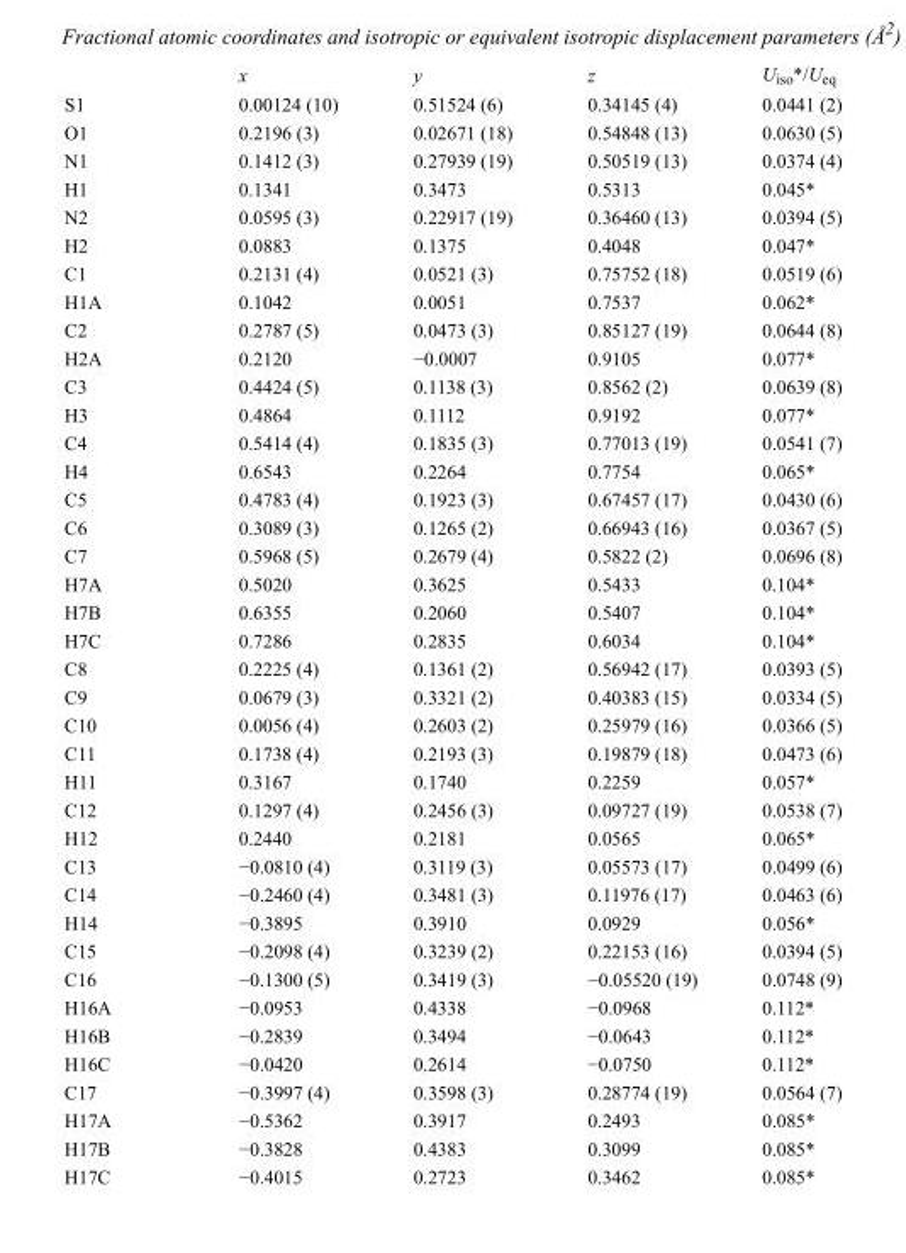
<table><thead><tr><td></td><td>x</td><td>y</td><td>z</td><td>U<sub>iso</sub>*/U<sub>eq</sub></td></tr></thead><tbody><tr><td>S1</td><td>0.00124 (10)</td><td>0.51524 (6)</td><td>0.34145 (4)</td><td>0.0441 (2)</td></tr><tr><td>O1</td><td>0.2196 (3)</td><td>0.02671 (18)</td><td>0.54848 (13)</td><td>0.0630 (5)</td></tr><tr><td>N1</td><td>0.1412 (3)</td><td>0.27939 (19)</td><td>0.50519 (13)</td><td>0.0374 (4)</td></tr><tr><td>H1</td><td>0.1341</td><td>0.3473</td><td>0.5313</td><td>0.045*</td></tr><tr><td>N2</td><td>0.0595 (3)</td><td>0.22917 (19)</td><td>0.36460 (13)</td><td>0.0394 (5)</td></tr><tr><td>H2</td><td>0.0883</td><td>0.1375</td><td>0.4048</td><td>0.047*</td></tr><tr><td>C1</td><td>0.2131 (4)</td><td>0.0521 (3)</td><td>0.75752 (18)</td><td>0.0519 (6)</td></tr><tr><td>H1A</td><td>0.1042</td><td>0.0051</td><td>0.7537</td><td>0.062*</td></tr><tr><td>C2</td><td>0.2787 (5)</td><td>0.0473 (3)</td><td>0.85127 (19)</td><td>0.0644 (8)</td></tr><tr><td>H2A</td><td>0.2120</td><td>−0.0007</td><td>0.9105</td><td>0.077*</td></tr><tr><td>C3</td><td>0.4424 (5)</td><td>0.1138 (3)</td><td>0.8562 (2)</td><td>0.0639 (8)</td></tr><tr><td>H3</td><td>0.4864</td><td>0.1112</td><td>0.9192</td><td>0.077*</td></tr><tr><td>C4</td><td>0.5414 (4)</td><td>0.1835 (3)</td><td>0.77013 (19)</td><td>0.0541 (7)</td></tr><tr><td>H4</td><td>0.6543</td><td>0.2264</td><td>0.7754</td><td>0.065*</td></tr><tr><td>C5</td><td>0.4783 (4)</td><td>0.1923 (3)</td><td>0.67457 (17)</td><td>0.0430 (6)</td></tr><tr><td>C6</td><td>0.3089 (3)</td><td>0.1265 (2)</td><td>0.66943 (16)</td><td>0.0367 (5)</td></tr><tr><td>C7</td><td>0.5968 (5)</td><td>0.2679 (4)</td><td>0.5822 (2)</td><td>0.0696 (8)</td></tr><tr><td>H7A</td><td>0.5020</td><td>0.3625</td><td>0.5433</td><td>0.104*</td></tr><tr><td>H7B</td><td>0.6355</td><td>0.2060</td><td>0.5407</td><td>0.104*</td></tr><tr><td>H7C</td><td>0.7286</td><td>0.2835</td><td>0.6034</td><td>0.104*</td></tr><tr><td>C8</td><td>0.2225 (4)</td><td>0.1361 (2)</td><td>0.56942 (17)</td><td>0.0393 (5)</td></tr><tr><td>C9</td><td>0.0679 (3)</td><td>0.3321 (2)</td><td>0.40383 (15)</td><td>0.0334 (5)</td></tr><tr><td>C10</td><td>0.0056 (4)</td><td>0.2603 (2)</td><td>0.25979 (16)</td><td>0.0366 (5)</td></tr><tr><td>C11</td><td>0.1738 (4)</td><td>0.2193 (3)</td><td>0.19879 (18)</td><td>0.0473 (6)</td></tr><tr><td>H11</td><td>0.3167</td><td>0.1740</td><td>0.2259</td><td>0.057*</td></tr><tr><td>C12</td><td>0.1297 (4)</td><td>0.2456 (3)</td><td>0.09727 (19)</td><td>0.0538 (7)</td></tr><tr><td>H12</td><td>0.2440</td><td>0.2181</td><td>0.0565</td><td>0.065*</td></tr><tr><td>C13</td><td>−0.0810 (4)</td><td>0.3119 (3)</td><td>0.05573 (17)</td><td>0.0499 (6)</td></tr><tr><td>C14</td><td>−0.2460 (4)</td><td>0.3481 (3)</td><td>0.11976 (17)</td><td>0.0463 (6)</td></tr><tr><td>H14</td><td>−0.3895</td><td>0.3910</td><td>0.0929</td><td>0.056*</td></tr><tr><td>C15</td><td>−0.2098 (4)</td><td>0.3239 (2)</td><td>0.22153 (16)</td><td>0.0394 (5)</td></tr><tr><td>C16</td><td>−0.1300 (5)</td><td>0.3419 (3)</td><td>−0.05520 (19)</td><td>0.0748 (9)</td></tr><tr><td>H16A</td><td>−0.0953</td><td>0.4338</td><td>−0.0968</td><td>0.112*</td></tr><tr><td>H16B</td><td>−0.2839</td><td>0.3494</td><td>−0.0643</td><td>0.112*</td></tr><tr><td>H16C</td><td>−0.0420</td><td>0.2614</td><td>−0.0750</td><td>0.112*</td></tr><tr><td>C17</td><td>−0.3997 (4)</td><td>0.3598 (3)</td><td>0.28774 (19)</td><td>0.0564 (7)</td></tr><tr><td>H17A</td><td>−0.5362</td><td>0.3917</td><td>0.2493</td><td>0.085*</td></tr><tr><td>H17B</td><td>−0.3828</td><td>0.4383</td><td>0.3099</td><td>0.085*</td></tr><tr><td>H17C</td><td>−0.4015</td><td>0.2723</td><td>0.3462</td><td>0.085*</td></tr></tbody></table>